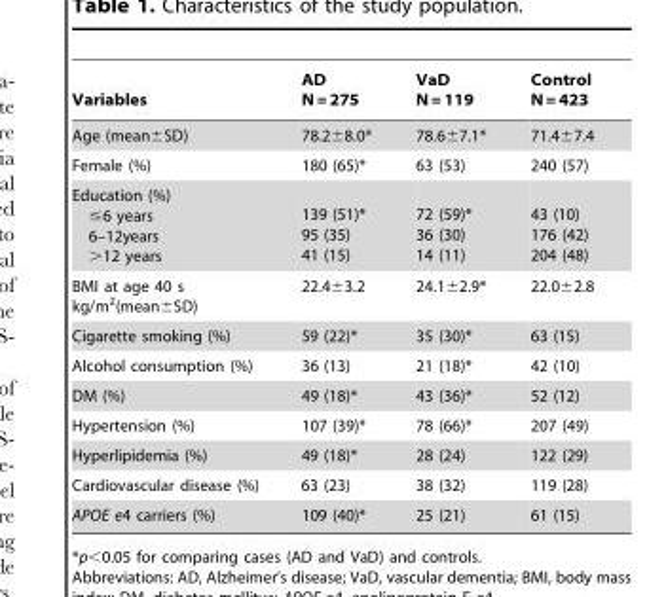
<table><thead><tr><td>Variables</td><td>AD N = 275</td><td>VaD N = 119</td><td>Control N = 423</td></tr></thead><tbody><tr><td>Age (mean±SD)</td><td>78.2±8.0*</td><td>78.6±7.1*</td><td>71.4±7.4</td></tr><tr><td>Female (%)</td><td>180 (65)*</td><td>63 (53)</td><td>240 (57)</td></tr><tr><td>Education (%) ≤6 years 6–12years &gt;12 years</td><td>139 (51)* 95 (35) 41 (15)</td><td>72 (59)* 36 (30) 14 (11)</td><td>43 (10) 176 (42) 204 (48)</td></tr><tr><td>BMI at age 40 s kg/m<sup>2</sup>(mean±SD)</td><td>22.4±3.2</td><td>24.1±2.9*</td><td>22.0±2.8</td></tr><tr><td>Cigarette smoking (%)</td><td>59 (22)*</td><td>35 (30)*</td><td>63 (15)</td></tr><tr><td>Alcohol consumption (%)</td><td>36 (13)</td><td>21 (18)*</td><td>42 (10)</td></tr><tr><td>DM (%)</td><td>49 (18)*</td><td>43 (36)*</td><td>52 (12)</td></tr><tr><td>Hypertension (%)</td><td>107 (39)*</td><td>78 (66)*</td><td>207 (49)</td></tr><tr><td>Hyperlipidemia (%)</td><td>49 (18)*</td><td>28 (24)</td><td>122 (29)</td></tr><tr><td>Cardiovascular disease (%)</td><td>63 (23)</td><td>38 (32)</td><td>119 (28)</td></tr><tr><td>APOE e4 carriers (%)</td><td>109 (40)*</td><td>25 (21)</td><td>61 (15)</td></tr></tbody></table>